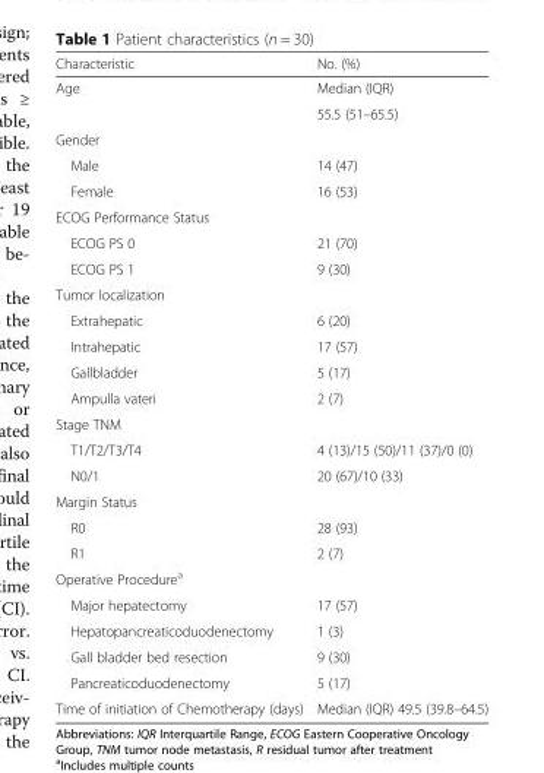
<table><thead><tr><td>Characteristic</td><td>No. (%)</td></tr></thead><tbody><tr><td rowspan="2">Age</td><td>Median (IQR)</td></tr><tr><td>55.5 (51–65.5)</td></tr><tr><td colspan="2">Gender</td></tr><tr><td>Male</td><td>14 (47)</td></tr><tr><td>Female</td><td>16 (53)</td></tr><tr><td colspan="2">ECOG Performance Status</td></tr><tr><td>ECOG PS 0</td><td>21 (70)</td></tr><tr><td>ECOG PS 1</td><td>9 (30)</td></tr><tr><td colspan="2">Tumor localization</td></tr><tr><td>Extrahepatic</td><td>6 (20)</td></tr><tr><td>Intrahepatic</td><td>17 (57)</td></tr><tr><td>Gallbladder</td><td>5 (17)</td></tr><tr><td>Ampulla vateri</td><td>2 (7)</td></tr><tr><td colspan="2">Stage TNM</td></tr><tr><td>T1/T2/T3/T4</td><td>4 (13)/15 (50)/11 (37)/0 (0)</td></tr><tr><td>N0/1</td><td>20 (67)/10 (33)</td></tr><tr><td colspan="2">Margin Status</td></tr><tr><td>R0</td><td>28 (93)</td></tr><tr><td>R1</td><td>2 (7)</td></tr><tr><td colspan="2">Operative Procedure<sup>a</sup></td></tr><tr><td>Major hepatectomy</td><td>17 (57)</td></tr><tr><td>Hepatopancreaticoduodenectomy</td><td>1 (3)</td></tr><tr><td>Gall bladder bed resection</td><td>9 (30)</td></tr><tr><td>Pancreaticoduodenectomy</td><td>5 (17)</td></tr><tr><td>Time of initiation of Chemotherapy (days)</td><td>Median (IQR) 49.5 (39.8–64.5)</td></tr></tbody></table>